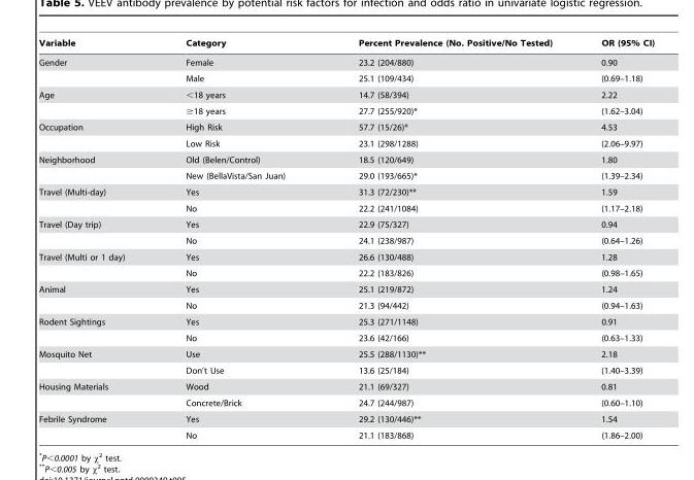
<table><thead><tr><td>Variable</td><td>Category</td><td>Percent Prevalence (No. Positive/No Tested)</td><td>OR (95% CI)</td></tr></thead><tbody><tr><td rowspan="2">Gender</td><td>Female</td><td>23.2 (204/880)</td><td>0.90</td></tr><tr><td>Male</td><td>25.1 (109/434)</td><td>(0.69–1.18)</td></tr><tr><td rowspan="2">Age</td><td>&lt;18 years</td><td>14.7 (58/394)</td><td>2.22</td></tr><tr><td>≥18 years</td><td>27.7 (255/920)*</td><td>(1.62–3.04)</td></tr><tr><td rowspan="2">Occupation</td><td>High Risk</td><td>57.7 (15/26)*</td><td>4.53</td></tr><tr><td>Low Risk</td><td>23.1 (298/1288)</td><td>(2.06–9.97)</td></tr><tr><td rowspan="2">Neighborhood</td><td>Old (Belen/Control)</td><td>18.5 (120/649)</td><td>1.80</td></tr><tr><td>New (BellaVista/San Juan)</td><td>29.0 (193/665)*</td><td>(1.39–2.34)</td></tr><tr><td rowspan="2">Travel (Multi-day)</td><td>Yes</td><td>31.3 (72/230)**</td><td>1.59</td></tr><tr><td>No</td><td>22.2 (241/1084)</td><td>(1.17–2.18)</td></tr><tr><td rowspan="2">Travel (Day trip)</td><td>Yes</td><td>22.9 (75/327)</td><td>0.94</td></tr><tr><td>No</td><td>24.1 (238/987)</td><td>(0.64–1.26)</td></tr><tr><td rowspan="2">Travel (Multi or 1 day)</td><td>Yes</td><td>26.6 (130/488)</td><td>1.28</td></tr><tr><td>No</td><td>22.2 (183/826)</td><td>(0.98–1.65)</td></tr><tr><td rowspan="2">Animal</td><td>Yes</td><td>25.1 (219/872)</td><td>1.24</td></tr><tr><td>No</td><td>21.3 (94/442)</td><td>(0.94–1.63)</td></tr><tr><td rowspan="2">Rodent Sightings</td><td>Yes</td><td>25.3 (271/1148)</td><td>0.91</td></tr><tr><td>No</td><td>23.6 (42/166)</td><td>(0.63–1.33)</td></tr><tr><td rowspan="2">Mosquito Net</td><td>Use</td><td>25.5 (288/1130)**</td><td>2.18</td></tr><tr><td>Don’t Use</td><td>13.6 (25/184)</td><td>(1.40–3.39)</td></tr><tr><td rowspan="2">Housing Materials</td><td>Wood</td><td>21.1 (69/327)</td><td>0.81</td></tr><tr><td>Concrete/Brick</td><td>24.7 (244/987)</td><td>(0.60–1.10)</td></tr><tr><td rowspan="2">Febrile Syndrome</td><td>Yes</td><td>29.2 (130/446)**</td><td>1.54</td></tr><tr><td>No</td><td>21.1 (183/868)</td><td>(1.86–2.00)</td></tr></tbody></table>